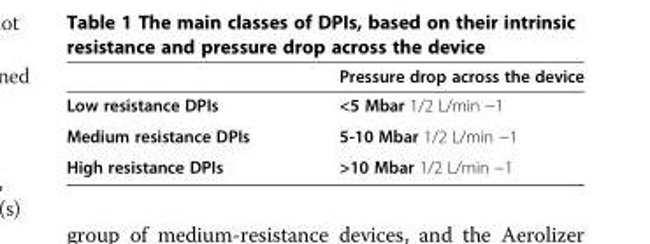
<table><thead><tr><td></td><td>Pressure drop across the device</td></tr></thead><tbody><tr><td>Low resistance DPIs</td><td>&lt;5 Mbar 1/2 L/min −1</td></tr><tr><td>Medium resistance DPIs</td><td>5-10 Mbar 1/2 L/min −1</td></tr><tr><td>High resistance DPIs</td><td>&gt;10 Mbar 1/2 L/min −1</td></tr></tbody></table>